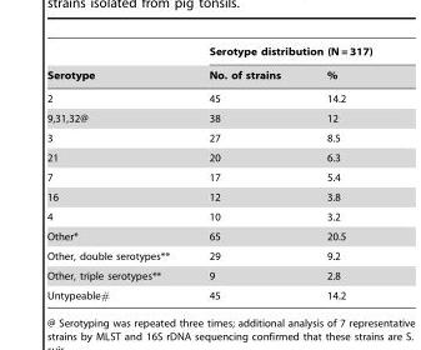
<table><thead><tr><td rowspan="2">Serotype</td><td colspan="2">Serotype distribution (N = 317)</td></tr><tr><td>No. of strains</td><td>%</td></tr></thead><tbody><tr><td>2</td><td>45</td><td>14.2</td></tr><tr><td>9,31,32@</td><td>38</td><td>12</td></tr><tr><td>3</td><td>27</td><td>8.5</td></tr><tr><td>21</td><td>20</td><td>6.3</td></tr><tr><td>7</td><td>17</td><td>5.4</td></tr><tr><td>16</td><td>12</td><td>3.8</td></tr><tr><td>4</td><td>10</td><td>3.2</td></tr><tr><td>Other*</td><td>65</td><td>20.5</td></tr><tr><td>Other, double serotypes**</td><td>29</td><td>9.2</td></tr><tr><td>Other, triple serotypes**</td><td>9</td><td>2.8</td></tr><tr><td>Untypeable#</td><td>45</td><td>14.2</td></tr></tbody></table>